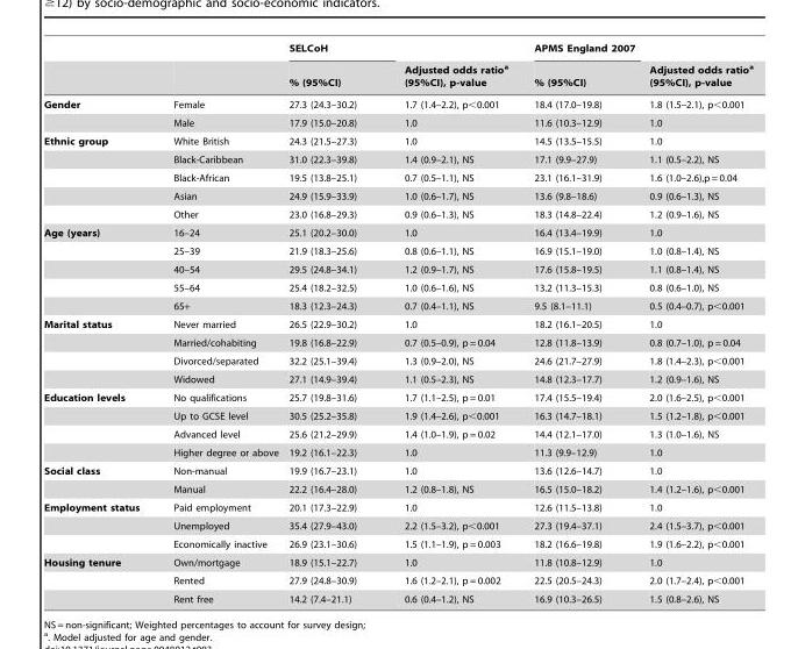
<table><thead><tr><td rowspan="2"></td><td rowspan="2"></td><td rowspan="2">SELCoH % (95%CI)</td><td rowspan="2">Adjusted odds ratio<sup>a</sup> (95%CI), p-value</td><td rowspan="2">APMS England 2007 % (95%CI)</td><td rowspan="2">Adjusted odds ratio<sup>a</sup> (95%CI), p-value</td></tr><tr></tr></thead><tbody><tr><td rowspan="2">Gender</td><td>Female</td><td>27.3 (24.3–30.2)</td><td>1.7 (1.4–2.2), p&lt;0.001</td><td>18.4 (17.0–19.8)</td><td>1.8 (1.5–2.1), p&lt;0.001</td></tr><tr><td>Male</td><td>17.9 (15.0–20.8)</td><td>1.0</td><td>11.6 (10.3–12.9)</td><td>1.0</td></tr><tr><td rowspan="5">Ethnic group</td><td>White British</td><td>24.3 (21.5–27.3)</td><td>1.0</td><td>14.5 (13.5–15.5)</td><td>1.0</td></tr><tr><td>Black-Caribbean</td><td>31.0 (22.3–39.8)</td><td>1.4 (0.9–2.1), NS</td><td>17.1 (9.9–27.9)</td><td>1.1 (0.5–2.2), NS</td></tr><tr><td>Black-African</td><td>19.5 (13.8–25.1)</td><td>0.7 (0.5–1.1), NS</td><td>23.1 (16.1–31.9)</td><td>1.6 (1.0–2.6),p = 0.04</td></tr><tr><td>Asian</td><td>24.9 (15.9–33.9)</td><td>1.0 (0.6–1.7), NS</td><td>13.6 (9.8–18.6)</td><td>0.9 (0.6–1.3), NS</td></tr><tr><td>Other</td><td>23.0 (16.8–29.3)</td><td>0.9 (0.6–1.3), NS</td><td>18.3 (14.8–22.4)</td><td>1.2 (0.9–1.6), NS</td></tr><tr><td rowspan="5">Age (years)</td><td>16–24</td><td>25.1 (20.2–30.0)</td><td>1.0</td><td>16.4 (13.4–19.9)</td><td>1.0</td></tr><tr><td>25–39</td><td>21.9 (18.3–25.6)</td><td>0.8 (0.6–1.1), NS</td><td>16.9 (15.1–19.0)</td><td>1.0 (0.8–1.4), NS</td></tr><tr><td>40–54</td><td>29.5 (24.8–34.1)</td><td>1.2 (0.9–1.7), NS</td><td>17.6 (15.8–19.5)</td><td>1.1 (0.8–1.4), NS</td></tr><tr><td>55–64</td><td>25.4 (18.2–32.5)</td><td>1.0 (0.6–1.6), NS</td><td>13.2 (11.3–15.3)</td><td>0.8 (0.6–1.0), NS</td></tr><tr><td>65+</td><td>18.3 (12.3–24.3)</td><td>0.7 (0.4–1.1), NS</td><td>9.5 (8.1–11.1)</td><td>0.5 (0.4–0.7), p&lt;0.001</td></tr><tr><td rowspan="4">Marital status</td><td>Never married</td><td>26.5 (22.9–30.2)</td><td>1.0</td><td>18.2 (16.1–20.5)</td><td>1.0</td></tr><tr><td>Married/cohabiting</td><td>19.8 (16.8–22.9)</td><td>0.7 (0.5–0.9), p = 0.04</td><td>12.8 (11.8–13.9)</td><td>0.8 (0.7–1.0), p = 0.04</td></tr><tr><td>Divorced/separated</td><td>32.2 (25.1–39.4)</td><td>1.3 (0.9–2.0), NS</td><td>24.6 (21.7–27.9)</td><td>1.8 (1.4–2.3), p&lt;0.001</td></tr><tr><td>Widowed</td><td>27.1 (14.9–39.4)</td><td>1.1 (0.5–2.3), NS</td><td>14.8 (12.3–17.7)</td><td>1.2 (0.9–1.6), NS</td></tr><tr><td rowspan="4">Education levels</td><td>No qualifications</td><td>25.7 (19.8–31.6)</td><td>1.7 (1.1–2.5), p = 0.01</td><td>17.4 (15.5–19.4)</td><td>2.0 (1.6–2.5), p&lt;0.001</td></tr><tr><td>Up to GCSE level</td><td>30.5 (25.2–35.8)</td><td>1.9 (1.4–2.6), p&lt;0.001</td><td>16.3 (14.7–18.1)</td><td>1.5 (1.2–1.8), p&lt;0.001</td></tr><tr><td>Advanced level</td><td>25.6 (21.2–29.9)</td><td>1.4 (1.0–1.9), p = 0.02</td><td>14.4 (12.1–17.0)</td><td>1.3 (1.0–1.6), NS</td></tr><tr><td>Higher degree or above</td><td>19.2 (16.1–22.3)</td><td>1.0</td><td>11.3 (9.9–12.9)</td><td>1.0</td></tr><tr><td rowspan="2">Social class</td><td>Non-manual</td><td>19.9 (16.7–23.1)</td><td>1.0</td><td>13.6 (12.6–14.7)</td><td>1.0</td></tr><tr><td>Manual</td><td>22.2 (16.4–28.0)</td><td>1.2 (0.8–1.8), NS</td><td>16.5 (15.0–18.2)</td><td>1.4 (1.2–1.6), p&lt;0.001</td></tr><tr><td rowspan="3">Employment status</td><td>Paid employment</td><td>20.1 (17.3–22.9)</td><td>1.0</td><td>12.6 (11.5–13.8)</td><td>1.0</td></tr><tr><td>Unemployed</td><td>35.4 (27.9–43.0)</td><td>2.2 (1.5–3.2), p&lt;0.001</td><td>27.3 (19.4–37.1)</td><td>2.4 (1.5–3.7), p&lt;0.001</td></tr><tr><td>Economically inactive</td><td>26.9 (23.1–30.6)</td><td>1.5 (1.1–1.9), p = 0.003</td><td>18.2 (16.6–19.8)</td><td>1.9 (1.6–2.2), p&lt;0.001</td></tr><tr><td rowspan="3">Housing tenure</td><td>Own/mortgage</td><td>18.9 (15.1–22.7)</td><td>1.0</td><td>11.8 (10.8–12.9)</td><td>1.0</td></tr><tr><td>Rented</td><td>27.9 (24.8–30.9)</td><td>1.6 (1.2–2.1), p = 0.002</td><td>22.5 (20.5–24.3)</td><td>2.0 (1.7–2.4), p&lt;0.001</td></tr><tr><td>Rent free</td><td>14.2 (7.4–21.1)</td><td>0.6 (0.4–1.2), NS</td><td>16.9 (10.3–26.5)</td><td>1.5 (0.8–2.6), NS</td></tr></tbody></table>